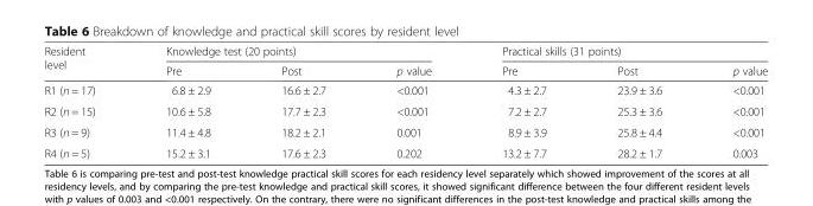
<table><thead><tr><td rowspan="2">Resident level</td><td colspan="3">Knowledge test (20 points)</td><td colspan="3">Practical skills (31 points)</td></tr><tr><td>Pre</td><td>Post</td><td>p value</td><td>Pre</td><td>Post</td><td>p value</td></tr></thead><tbody><tr><td>R1 (n = 17)</td><td>6.8 ± 2.9</td><td>16.6 ± 2.7</td><td>&lt;0.001</td><td>4.3 ± 2.7</td><td>23.9 ± 3.6</td><td>&lt;0.001</td></tr><tr><td>R2 (n = 15)</td><td>10.6 ± 5.8</td><td>17.7 ± 2.3</td><td>&lt;0.001</td><td>7.2 ± 2.7</td><td>25.3 ± 3.6</td><td>&lt;0.001</td></tr><tr><td>R3 (n = 9)</td><td>11.4 ± 4.8</td><td>18.2 ± 2.1</td><td>0.001</td><td>8.9 ± 3.9</td><td>25.8 ± 4.4</td><td>&lt;0.001</td></tr><tr><td>R4 (n = 5)</td><td>15.2 ± 3.1</td><td>17.6 ± 2.3</td><td>0.202</td><td>13.2 ± 7.7</td><td>28.2 ± 1.7</td><td>0.003</td></tr></tbody></table>